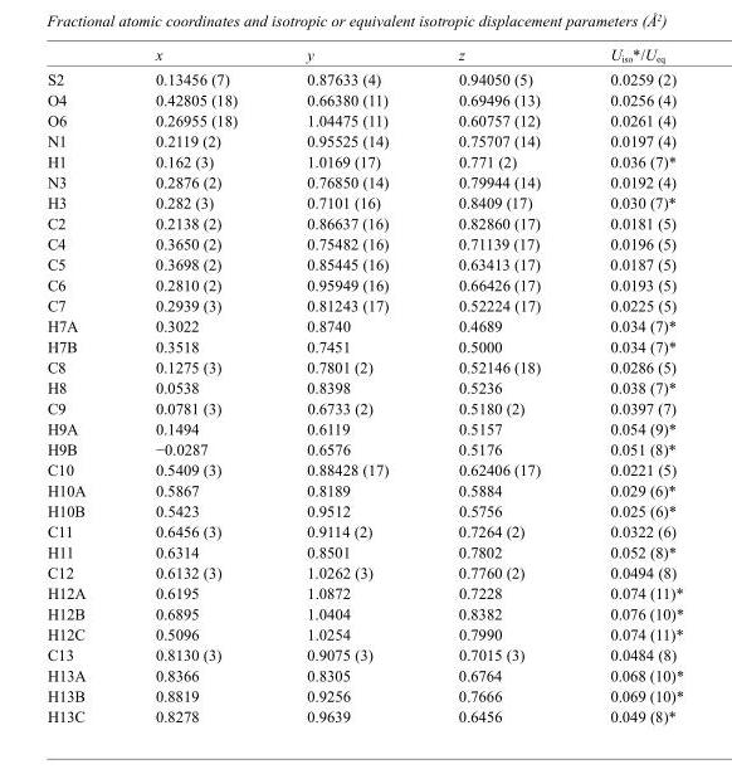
<table><thead><tr><td></td><td>x</td><td>y</td><td>z</td><td>U<sub>iso</sub>*/U<sub>eq</sub></td></tr></thead><tbody><tr><td>S2</td><td>0.13456 (7)</td><td>0.87633 (4)</td><td>0.94050 (5)</td><td>0.0259 (2)</td></tr><tr><td>O4</td><td>0.42805 (18)</td><td>0.66380 (11)</td><td>0.69496 (13)</td><td>0.0256 (4)</td></tr><tr><td>O6</td><td>0.26955 (18)</td><td>1.04475 (11)</td><td>0.60757 (12)</td><td>0.0261 (4)</td></tr><tr><td>N1</td><td>0.2119 (2)</td><td>0.95525 (14)</td><td>0.75707 (14)</td><td>0.0197 (4)</td></tr><tr><td>H1</td><td>0.162 (3)</td><td>1.0169 (17)</td><td>0.771 (2)</td><td>0.036 (7)*</td></tr><tr><td>N3</td><td>0.2876 (2)</td><td>0.76850 (14)</td><td>0.79944 (14)</td><td>0.0192 (4)</td></tr><tr><td>H3</td><td>0.282 (3)</td><td>0.7101 (16)</td><td>0.8409 (17)</td><td>0.030 (7)*</td></tr><tr><td>C2</td><td>0.2138 (2)</td><td>0.86637 (16)</td><td>0.82860 (17)</td><td>0.0181 (5)</td></tr><tr><td>C4</td><td>0.3650 (2)</td><td>0.75482 (16)</td><td>0.71139 (17)</td><td>0.0196 (5)</td></tr><tr><td>C5</td><td>0.3698 (2)</td><td>0.85445 (16)</td><td>0.63413 (17)</td><td>0.0187 (5)</td></tr><tr><td>C6</td><td>0.2810 (2)</td><td>0.95949 (16)</td><td>0.66426 (17)</td><td>0.0193 (5)</td></tr><tr><td>C7</td><td>0.2939 (3)</td><td>0.81243 (17)</td><td>0.52224 (17)</td><td>0.0225 (5)</td></tr><tr><td>H7A</td><td>0.3022</td><td>0.8740</td><td>0.4689</td><td>0.034 (7)*</td></tr><tr><td>H7B</td><td>0.3518</td><td>0.7451</td><td>0.5000</td><td>0.034 (7)*</td></tr><tr><td>C8</td><td>0.1275 (3)</td><td>0.7801 (2)</td><td>0.52146 (18)</td><td>0.0286 (5)</td></tr><tr><td>H8</td><td>0.0538</td><td>0.8398</td><td>0.5236</td><td>0.038 (7)*</td></tr><tr><td>C9</td><td>0.0781 (3)</td><td>0.6733 (2)</td><td>0.5180 (2)</td><td>0.0397 (7)</td></tr><tr><td>H9A</td><td>0.1494</td><td>0.6119</td><td>0.5157</td><td>0.054 (9)*</td></tr><tr><td>H9B</td><td>−0.0287</td><td>0.6576</td><td>0.5176</td><td>0.051 (8)*</td></tr><tr><td>C10</td><td>0.5409 (3)</td><td>0.88428 (17)</td><td>0.62406 (17)</td><td>0.0221 (5)</td></tr><tr><td>H10A</td><td>0.5867</td><td>0.8189</td><td>0.5884</td><td>0.029 (6)*</td></tr><tr><td>H10B</td><td>0.5423</td><td>0.9512</td><td>0.5756</td><td>0.025 (6)*</td></tr><tr><td>C11</td><td>0.6456 (3)</td><td>0.9114 (2)</td><td>0.7264 (2)</td><td>0.0322 (6)</td></tr><tr><td>H11</td><td>0.6314</td><td>0.8501</td><td>0.7802</td><td>0.052 (8)*</td></tr><tr><td>C12</td><td>0.6132 (3)</td><td>1.0262 (3)</td><td>0.7760 (2)</td><td>0.0494 (8)</td></tr><tr><td>H12A</td><td>0.6195</td><td>1.0872</td><td>0.7228</td><td>0.074 (11)*</td></tr><tr><td>H12B</td><td>0.6895</td><td>1.0404</td><td>0.8382</td><td>0.076 (10)*</td></tr><tr><td>H12C</td><td>0.5096</td><td>1.0254</td><td>0.7990</td><td>0.074 (11)*</td></tr><tr><td>C13</td><td>0.8130 (3)</td><td>0.9075 (3)</td><td>0.7015 (3)</td><td>0.0484 (8)</td></tr><tr><td>H13A</td><td>0.8366</td><td>0.8305</td><td>0.6764</td><td>0.068 (10)*</td></tr><tr><td>H13B</td><td>0.8819</td><td>0.9256</td><td>0.7666</td><td>0.069 (10)*</td></tr><tr><td>H13C</td><td>0.8278</td><td>0.9639</td><td>0.6456</td><td>0.049 (8)*</td></tr></tbody></table>